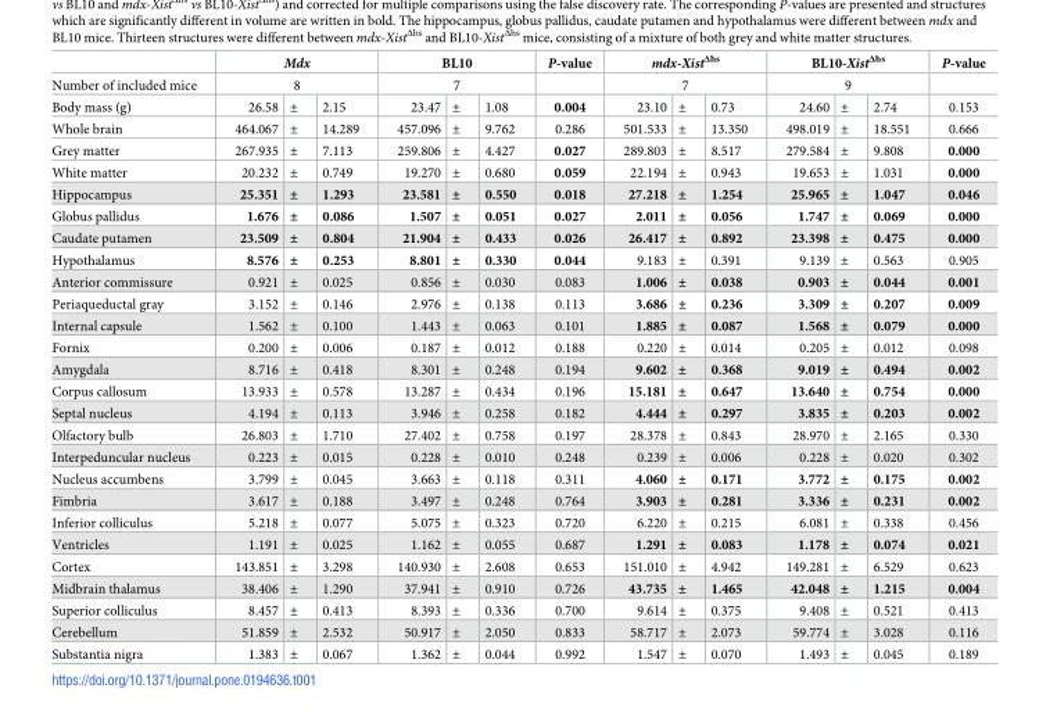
<table><thead><tr><td rowspan="3">Number of included mice Body mass (g)</td><td rowspan="2" colspan="3">Mdx 8</td><td rowspan="2" colspan="3">BL10 7</td><td rowspan="3">P-value 0.004</td><td rowspan="2" colspan="3">mdx-Xist<sup>Δhs</sup> 7</td><td rowspan="2" colspan="3">BL10-Xist<sup>Δhs</sup> 9</td><td rowspan="3">P-value 0.153</td></tr><tr></tr><tr><td>26.58</td><td>±</td><td>2.15</td><td>23.47</td><td>±</td><td>1.08</td><td>23.10</td><td>±</td><td>0.73</td><td>24.60</td><td>±</td><td>2.74</td></tr></thead><tbody><tr><td>Whole brain</td><td>464.067</td><td>±</td><td>14.289</td><td>457.096</td><td>±</td><td>9.762</td><td>0.286</td><td>501.533</td><td>±</td><td>13.350</td><td>498.019</td><td>±</td><td>18.551</td><td>0.666</td></tr><tr><td>Grey matter</td><td>267.935</td><td>±</td><td>7.113</td><td>259.806</td><td>±</td><td>4.427</td><td>0.027</td><td>289.803</td><td>±</td><td>8.517</td><td>279.584</td><td>±</td><td>9.808</td><td>0.000</td></tr><tr><td>White matter</td><td>20.232</td><td>±</td><td>0.749</td><td>19.270</td><td>±</td><td>0.680</td><td>0.059</td><td>22.194</td><td>±</td><td>0.943</td><td>19.653</td><td>±</td><td>1.031</td><td>0.000</td></tr><tr><td>Hippocampus</td><td>25.351</td><td>±</td><td>1.293</td><td>23.581</td><td>±</td><td>0.550</td><td>0.018</td><td>27.218</td><td>±</td><td>1.254</td><td>25.965</td><td>±</td><td>1.047</td><td>0.046</td></tr><tr><td>Globus pallidus</td><td>1.676</td><td>±</td><td>0.086</td><td>1.507</td><td>±</td><td>0.051</td><td>0.027</td><td>2.011</td><td>±</td><td>0.056</td><td>1.747</td><td>±</td><td>0.069</td><td>0.000</td></tr><tr><td>Caudate putamen</td><td>23.509</td><td>±</td><td>0.804</td><td>21.904</td><td>±</td><td>0.433</td><td>0.026</td><td>26.417</td><td>±</td><td>0.892</td><td>23.398</td><td>±</td><td>0.475</td><td>0.000</td></tr><tr><td>Hypothalamus</td><td>8.576</td><td>±</td><td>0.253</td><td>8.801</td><td>±</td><td>0.330</td><td>0.044</td><td>9.183</td><td>±</td><td>0.391</td><td>9.139</td><td>±</td><td>0.563</td><td>0.905</td></tr><tr><td>Anterior commissure</td><td>0.921</td><td>±</td><td>0.025</td><td>0.856</td><td>±</td><td>0.030</td><td>0.083</td><td>1.006</td><td>±</td><td>0.038</td><td>0.903</td><td>±</td><td>0.044</td><td>0.001</td></tr><tr><td>Periaqueductal gray</td><td>3.152</td><td>±</td><td>0.146</td><td>2.976</td><td>±</td><td>0.138</td><td>0.113</td><td>3.686</td><td>±</td><td>0.236</td><td>3.309</td><td>±</td><td>0.207</td><td>0.009</td></tr><tr><td>Internal capsule</td><td>1.562</td><td>±</td><td>0.100</td><td>1.443</td><td>±</td><td>0.063</td><td>0.101</td><td>1.885</td><td>±</td><td>0.087</td><td>1.568</td><td>±</td><td>0.079</td><td>0.000</td></tr><tr><td>Fornix</td><td>0.200</td><td>±</td><td>0.006</td><td>0.187</td><td>±</td><td>0.012</td><td>0.188</td><td>0.220</td><td>±</td><td>0.014</td><td>0.205</td><td>±</td><td>0.012</td><td>0.098</td></tr><tr><td>Amygdala</td><td>8.716</td><td>±</td><td>0.418</td><td>8.301</td><td>±</td><td>0.248</td><td>0.194</td><td>9.602</td><td>±</td><td>0.368</td><td>9.019</td><td>±</td><td>0.494</td><td>0.002</td></tr><tr><td>Corpus callosum</td><td>13.933</td><td>±</td><td>0.578</td><td>13.287</td><td>±</td><td>0.434</td><td>0.196</td><td>15.181</td><td>±</td><td>0.647</td><td>13.640</td><td>±</td><td>0.754</td><td>0.000</td></tr><tr><td>Septal nucleus</td><td>4.194</td><td>±</td><td>0.113</td><td>3.946</td><td>±</td><td>0.258</td><td>0.182</td><td>4.444</td><td>±</td><td>0.297</td><td>3.835</td><td>±</td><td>0.203</td><td>0.002</td></tr><tr><td>Olfactory bulb</td><td>26.803</td><td>±</td><td>1.710</td><td>27.402</td><td>±</td><td>0.758</td><td>0.197</td><td>28.378</td><td>±</td><td>0.843</td><td>28.970</td><td>±</td><td>2.165</td><td>0.330</td></tr><tr><td>Interpeduncular nucleus</td><td>0.223</td><td>±</td><td>0.015</td><td>0.228</td><td>±</td><td>0.010</td><td>0.248</td><td>0.239</td><td>±</td><td>0.006</td><td>0.228</td><td>±</td><td>0.020</td><td>0.302</td></tr><tr><td>Nucleus accumbens</td><td>3.799</td><td>±</td><td>0.045</td><td>3.663</td><td>±</td><td>0.118</td><td>0.311</td><td>4.060</td><td>±</td><td>0.171</td><td>3.772</td><td>±</td><td>0.175</td><td>0.002</td></tr><tr><td>Fimbria</td><td>3.617</td><td>±</td><td>0.188</td><td>3.497</td><td>±</td><td>0.248</td><td>0.764</td><td>3.903</td><td>±</td><td>0.281</td><td>3.336</td><td>±</td><td>0.231</td><td>0.002</td></tr><tr><td>Inferior colliculus</td><td>5.218</td><td>±</td><td>0.077</td><td>5.075</td><td>±</td><td>0.323</td><td>0.720</td><td>6.220</td><td>±</td><td>0.215</td><td>6.081</td><td>±</td><td>0.338</td><td>0.456</td></tr><tr><td>Ventricles</td><td>1.191</td><td>±</td><td>0.025</td><td>1.162</td><td>±</td><td>0.055</td><td>0.687</td><td>1.291</td><td>±</td><td>0.083</td><td>1.178</td><td>±</td><td>0.074</td><td>0.021</td></tr><tr><td>Cortex</td><td>143.851</td><td>±</td><td>3.298</td><td>140.930</td><td>±</td><td>2.608</td><td>0.653</td><td>151.010</td><td>±</td><td>4.942</td><td>149.281</td><td>±</td><td>6.529</td><td>0.623</td></tr><tr><td>Midbrain thalamus</td><td>38.406</td><td>±</td><td>1.290</td><td>37.941</td><td>±</td><td>0.910</td><td>0.726</td><td>43.735</td><td>±</td><td>1.465</td><td>42.048</td><td>±</td><td>1.215</td><td>0.004</td></tr><tr><td>Superior colliculus</td><td>8.457</td><td>±</td><td>0.413</td><td>8.393</td><td>±</td><td>0.336</td><td>0.700</td><td>9.614</td><td>±</td><td>0.375</td><td>9.408</td><td>±</td><td>0.521</td><td>0.413</td></tr><tr><td>Cerebellum</td><td>51.859</td><td>±</td><td>2.532</td><td>50.917</td><td>±</td><td>2.050</td><td>0.833</td><td>58.717</td><td>±</td><td>2.073</td><td>59.774</td><td>±</td><td>3.028</td><td>0.116</td></tr><tr><td>Substantia nigra</td><td>1.383</td><td>±</td><td>0.067</td><td>1.362</td><td>±</td><td>0.044</td><td>0.992</td><td>1.547</td><td>±</td><td>0.070</td><td>1.493</td><td>±</td><td>0.045</td><td>0.189</td></tr></tbody></table>